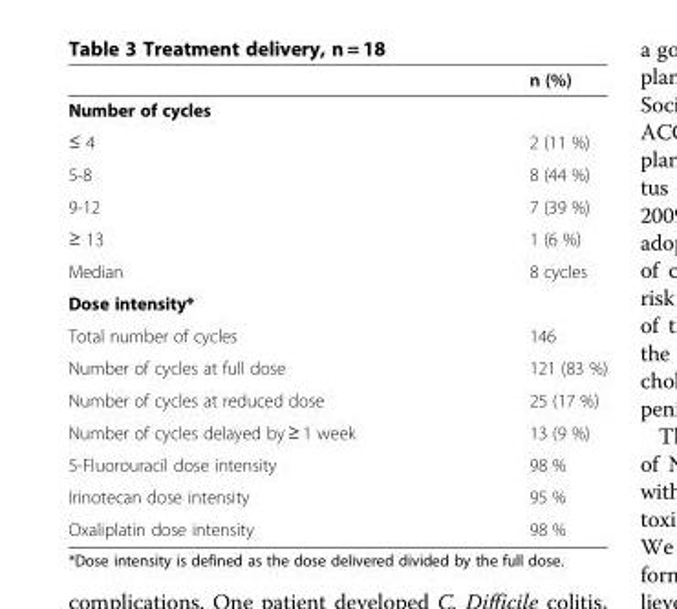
<table><thead><tr><td></td><td>n (%)</td></tr></thead><tbody><tr><td colspan="2">Number of cycles</td></tr><tr><td>≤ 4</td><td>2 (11 %)</td></tr><tr><td>5-8</td><td>8 (44 %)</td></tr><tr><td>9-12</td><td>7 (39 %)</td></tr><tr><td>≥ 13</td><td>1 (6 %)</td></tr><tr><td>Median</td><td>8 cycles</td></tr><tr><td colspan="2">Dose intensity*</td></tr><tr><td>Total number of cycles</td><td>146</td></tr><tr><td>Number of cycles at full dose</td><td>121 (83 %)</td></tr><tr><td>Number of cycles at reduced dose</td><td>25 (17 %)</td></tr><tr><td>Number of cycles delayed by ≥ 1 week</td><td>13 (9 %)</td></tr><tr><td>5-Fluorouracil dose intensity</td><td>98 %</td></tr><tr><td>Irinotecan dose intensity</td><td>95 %</td></tr><tr><td>Oxaliplatin dose intensity</td><td>98 %</td></tr></tbody></table>